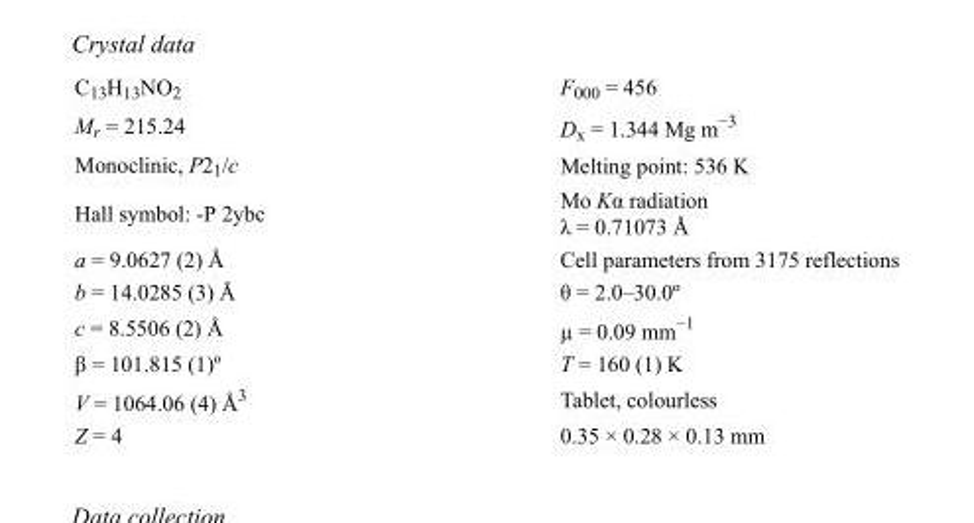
<table><tbody><tr><td>C<sub>13</sub>H<sub>13</sub>NO<sub>2</sub></td><td>F<sub>000</sub> = 456</td></tr><tr><td>M<sub>r</sub> = 215.24</td><td>D<sub>x</sub> = 1.344 Mg m<sup>−3</sup></td></tr><tr><td>Monoclinic, P2<sub>1</sub>/c</td><td>Melting point: 536 K</td></tr><tr><td>Hall symbol: -P 2ybc</td><td>Mo Kα radiation λ = 0.71073 Å</td></tr><tr><td>a = 9.0627 (2) Å</td><td>Cell parameters from 3175 reflections</td></tr><tr><td>b = 14.0285 (3) Å</td><td>θ = 2.0–30.0º</td></tr><tr><td>c = 8.5506 (2) Å</td><td>µ = 0.09 mm<sup>−1</sup></td></tr><tr><td>β = 101.815 (1)º</td><td>T = 160 (1) K</td></tr><tr><td>V = 1064.06 (4) Å<sup>3</sup></td><td>Tablet, colourless</td></tr><tr><td>Z = 4</td><td>0.35 × 0.28 × 0.13 mm</td></tr></tbody></table>